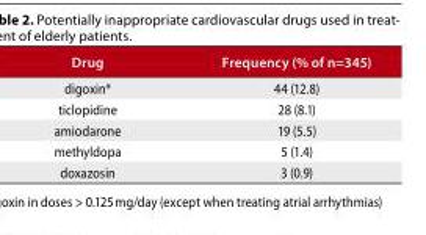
<table><thead><tr><td>Drug</td><td>Frequency (% of n=345)</td></tr></thead><tbody><tr><td>digoxin*</td><td>44 (12.8)</td></tr><tr><td>ticlopidine</td><td>28 (8.1)</td></tr><tr><td>amiodarone</td><td>19 (5.5)</td></tr><tr><td>methyldopa</td><td>5 (1.4)</td></tr><tr><td>doxazosin</td><td>3 (0.9)</td></tr></tbody></table>